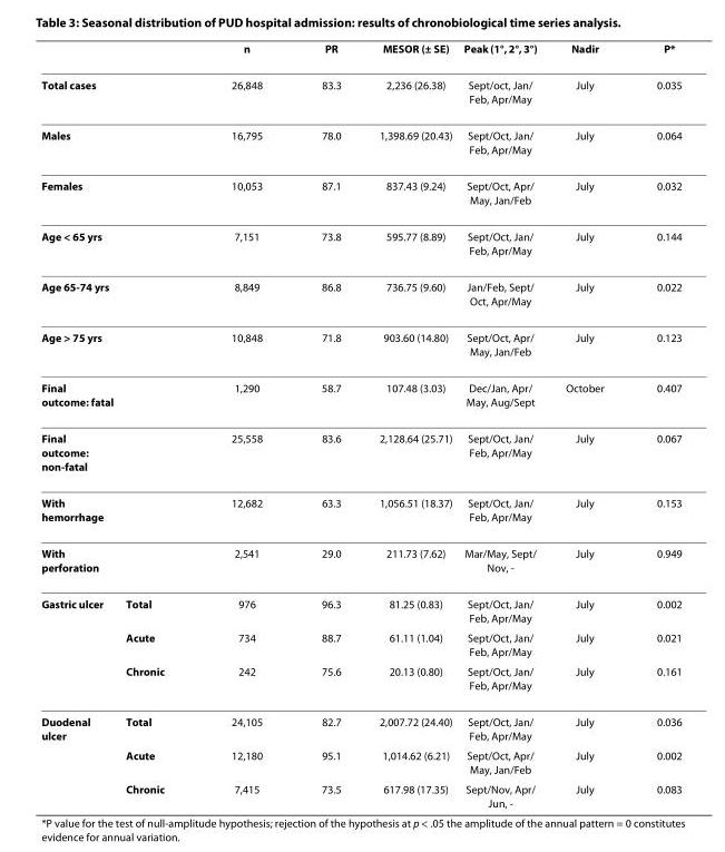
<table><thead><tr><td></td><td></td><td>n</td><td>PR</td><td>MESOR (± SE)</td><td>Peak (1°, 2°, 3°)</td><td>Nadir</td><td>P*</td></tr></thead><tbody><tr><td>Total cases</td><td></td><td>26,848</td><td>83.3</td><td>2,236 (26.38)</td><td>Sept/oct, Jan/ Feb, Apr/May</td><td>July</td><td>0.035</td></tr><tr><td>Males</td><td></td><td>16,795</td><td>78.0</td><td>1,398.69 (20.43)</td><td>Sept/Oct, Jan/ Feb, Apr/May</td><td>July</td><td>0.064</td></tr><tr><td>Females</td><td></td><td>10,053</td><td>87.1</td><td>837.43 (9.24)</td><td>Sept/Oct, Apr/ May, Jan/Feb</td><td>July</td><td>0.032</td></tr><tr><td>Age &lt; 65 yrs</td><td></td><td>7,151</td><td>73.8</td><td>595.77 (8.89)</td><td>Sept/Oct, Jan/ Feb, Apr/May</td><td>July</td><td>0.144</td></tr><tr><td>Age 65-74 yrs</td><td></td><td>8,849</td><td>86.8</td><td>736.75 (9.60)</td><td>Jan/Feb, Sept/ Oct, Apr/May</td><td>July</td><td>0.022</td></tr><tr><td>Age &gt; 75 yrs</td><td></td><td>10,848</td><td>71.8</td><td>903.60 (14.80)</td><td>Sept/Oct, Apr/ May, Jan/Feb</td><td>July</td><td>0.123</td></tr><tr><td>Final outcome: fatal</td><td></td><td>1,290</td><td>58.7</td><td>107.48 (3.03)</td><td>Dec/Jan, Apr/ May, Aug/Sept</td><td>October</td><td>0.407</td></tr><tr><td>Final outcome: non-fatal</td><td></td><td>25,558</td><td>83.6</td><td>2,128.64 (25.71)</td><td>Sept/Oct, Jan/ Feb, Apr/May</td><td>July</td><td>0.067</td></tr><tr><td>With hemorrhage</td><td></td><td>12,682</td><td>63.3</td><td>1,056.51 (18.37)</td><td>Sept/Oct, Jan/ Feb, Apr/May</td><td>July</td><td>0.153</td></tr><tr><td>With perforation</td><td></td><td>2,541</td><td>29.0</td><td>211.73 (7.62)</td><td>Mar/May, Sept/ Nov, -</td><td>July</td><td>0.949</td></tr><tr><td rowspan="3">Gastric ulcer</td><td>Total</td><td>976</td><td>96.3</td><td>81.25 (0.83)</td><td>Sept/Oct, Jan/ Feb, Apr/May</td><td>July</td><td>0.002</td></tr><tr><td>Acute</td><td>734</td><td>88.7</td><td>61.11 (1.04)</td><td>Sept/Oct, Jan/ Feb, Apr/May</td><td>July</td><td>0.021</td></tr><tr><td>Chronic</td><td>242</td><td>75.6</td><td>20.13 (0.80)</td><td>Sept/Oct, Jan/ Feb, Apr/May</td><td>July</td><td>0.161</td></tr><tr><td rowspan="3">Duodenal ulcer</td><td>Total</td><td>24,105</td><td>82.7</td><td>2,007.72 (24.40)</td><td>Sept/Oct, Jan/ Feb, Apr/May</td><td>July</td><td>0.036</td></tr><tr><td>Acute</td><td>12,180</td><td>95.1</td><td>1,014.62 (6.21)</td><td>Sept/Oct, Apr/ May, Jan/Feb</td><td>July</td><td>0.002</td></tr><tr><td>Chronic</td><td>7,415</td><td>73.5</td><td>617.98 (17.35)</td><td>Sept/Nov, Apr/ Jun, -</td><td>July</td><td>0.083</td></tr></tbody></table>